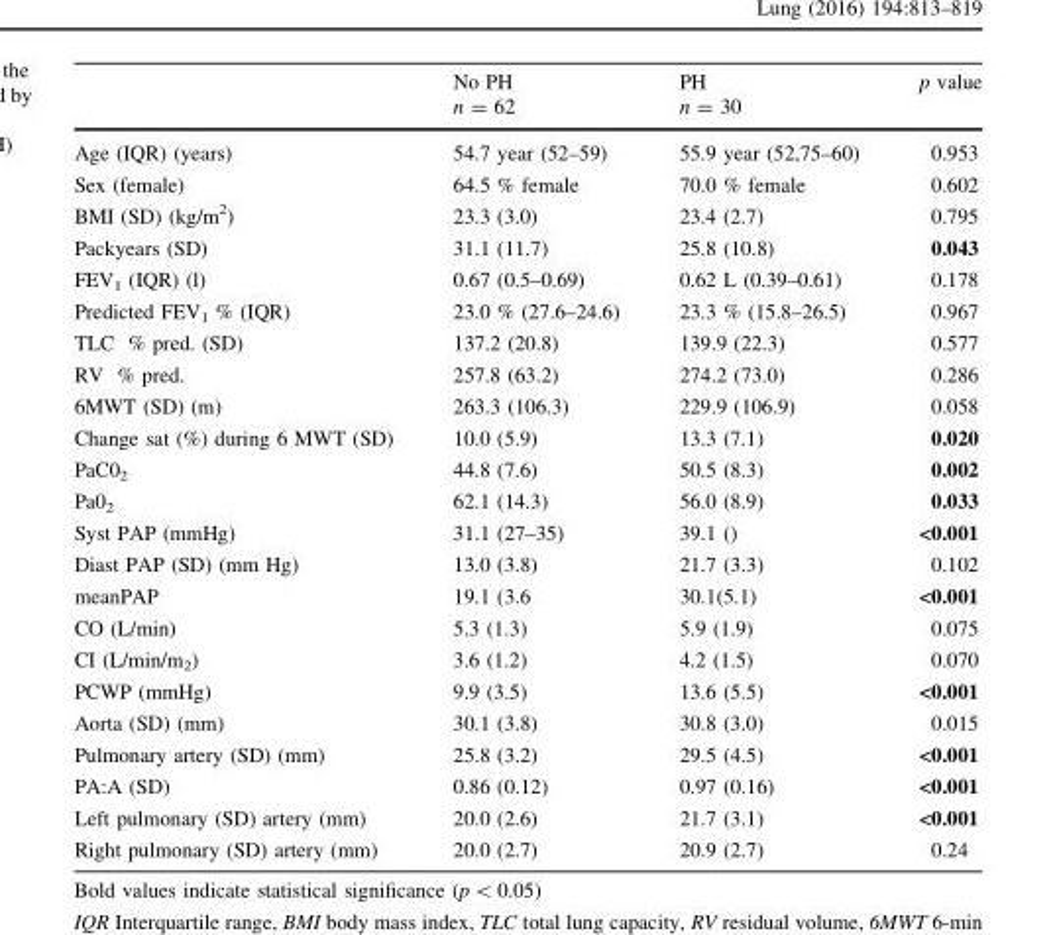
<table><thead><tr><td></td><td>No PH n = 62</td><td>PH n = 30</td><td>p value</td></tr></thead><tbody><tr><td>Age (IQR) (years)</td><td>54.7 year (52–59)</td><td>55.9 year (52,75–60)</td><td>0.953</td></tr><tr><td>Sex (female)</td><td>64.5 % female</td><td>70.0 % female</td><td>0.602</td></tr><tr><td>BMI (SD) (kg/m<sup>2</sup>)</td><td>23.3 (3.0)</td><td>23.4 (2.7)</td><td>0.795</td></tr><tr><td>Packyears (SD)</td><td>31.1 (11.7)</td><td>25.8 (10.8)</td><td>0.043</td></tr><tr><td>FEV<sub>1</sub> (IQR) (l)</td><td>0.67 (0.5–0.69)</td><td>0.62 L (0.39–0.61)</td><td>0.178</td></tr><tr><td>Predicted FEV<sub>1</sub> % (IQR)</td><td>23.0 % (27.6–24.6)</td><td>23.3 % (15.8–26.5)</td><td>0.967</td></tr><tr><td>TLC % pred. (SD)</td><td>137.2 (20.8)</td><td>139.9 (22.3)</td><td>0.577</td></tr><tr><td>RV % pred.</td><td>257.8 (63.2)</td><td>274.2 (73.0)</td><td>0.286</td></tr><tr><td>6MWT (SD) (m)</td><td>263.3 (106.3)</td><td>229.9 (106.9)</td><td>0.058</td></tr><tr><td>Change sat (%) during 6 MWT (SD)</td><td>10.0 (5.9)</td><td>13.3 (7.1)</td><td>0.020</td></tr><tr><td>PaC0<sub>2</sub></td><td>44.8 (7.6)</td><td>50.5 (8.3)</td><td>0.002</td></tr><tr><td>Pa0<sub>2</sub></td><td>62.1 (14.3)</td><td>56.0 (8.9)</td><td>0.033</td></tr><tr><td>Syst PAP (mmHg)</td><td>31.1 (27–35)</td><td>39.1 ()</td><td>&lt;0.001</td></tr><tr><td>Diast PAP (SD) (mm Hg)</td><td>13.0 (3.8)</td><td>21.7 (3.3)</td><td>0.102</td></tr><tr><td>meanPAP</td><td>19.1 (3.6</td><td>30.1(5.1)</td><td>&lt;0.001</td></tr><tr><td>CO (L/min)</td><td>5.3 (1.3)</td><td>5.9 (1.9)</td><td>0.075</td></tr><tr><td>CI (L/min/m<sub>2</sub>)</td><td>3.6 (1.2)</td><td>4.2 (1.5)</td><td>0.070</td></tr><tr><td>PCWP (mmHg)</td><td>9.9 (3.5)</td><td>13.6 (5.5)</td><td>&lt;0.001</td></tr><tr><td>Aorta (SD) (mm)</td><td>30.1 (3.8)</td><td>30.8 (3.0)</td><td>0.015</td></tr><tr><td>Pulmonary artery (SD) (mm)</td><td>25.8 (3.2)</td><td>29.5 (4.5)</td><td>&lt;0.001</td></tr><tr><td>PA:A (SD)</td><td>0.86 (0.12)</td><td>0.97 (0.16)</td><td>&lt;0.001</td></tr><tr><td>Left pulmonary (SD) artery (mm)</td><td>20.0 (2.6)</td><td>21.7 (3.1)</td><td>&lt;0.001</td></tr><tr><td>Right pulmonary (SD) artery (mm)</td><td>20.0 (2.7)</td><td>20.9 (2.7)</td><td>0.24</td></tr></tbody></table>